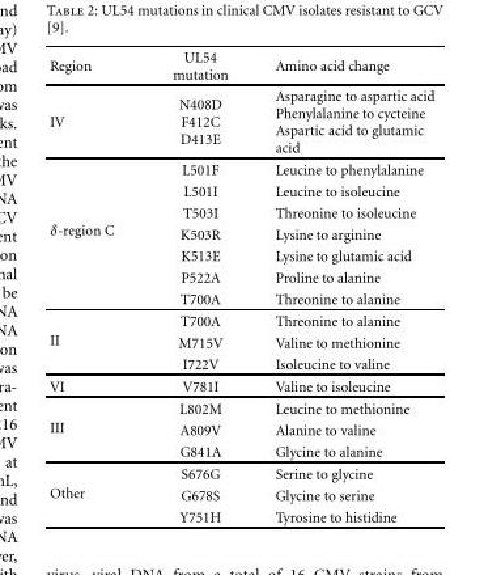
<table><thead><tr><td>Region</td><td>UL54 mutation</td><td>Amino acid change</td></tr></thead><tbody><tr><td>IV</td><td>N408D F412C D413E</td><td>Asparagine to aspartic acid Phenylalanine to cycteine Aspartic acid to glutamic acid</td></tr><tr><td rowspan="7">δ-region C</td><td>L501F</td><td>Leucine to phenylalanine</td></tr><tr><td>L501I</td><td>Leucine to isoleucine</td></tr><tr><td>T503I</td><td>Threonine to isoleucine</td></tr><tr><td>K503R</td><td>Lysine to arginine</td></tr><tr><td>K513E</td><td>Lysine to glutamic acid</td></tr><tr><td>P522A</td><td>Proline to alanine</td></tr><tr><td>T700A</td><td>Threonine to alanine</td></tr><tr><td rowspan="3">II</td><td>T700A</td><td>Threonine to alanine</td></tr><tr><td>M715V</td><td>Valine to methionine</td></tr><tr><td>I722V</td><td>Isoleucine to valine</td></tr><tr><td>VI</td><td>V781I</td><td>Valine to isoleucine</td></tr><tr><td rowspan="3">III</td><td>L802M</td><td>Leucine to methionine</td></tr><tr><td>A809V</td><td>Alanine to valine</td></tr><tr><td>G841A</td><td>Glycine to alanine</td></tr><tr><td rowspan="3">Other</td><td>S676G</td><td>Serine to glycine</td></tr><tr><td>G678S</td><td>Glycine to serine</td></tr><tr><td>Y751H</td><td>Tyrosine to histidine</td></tr></tbody></table>